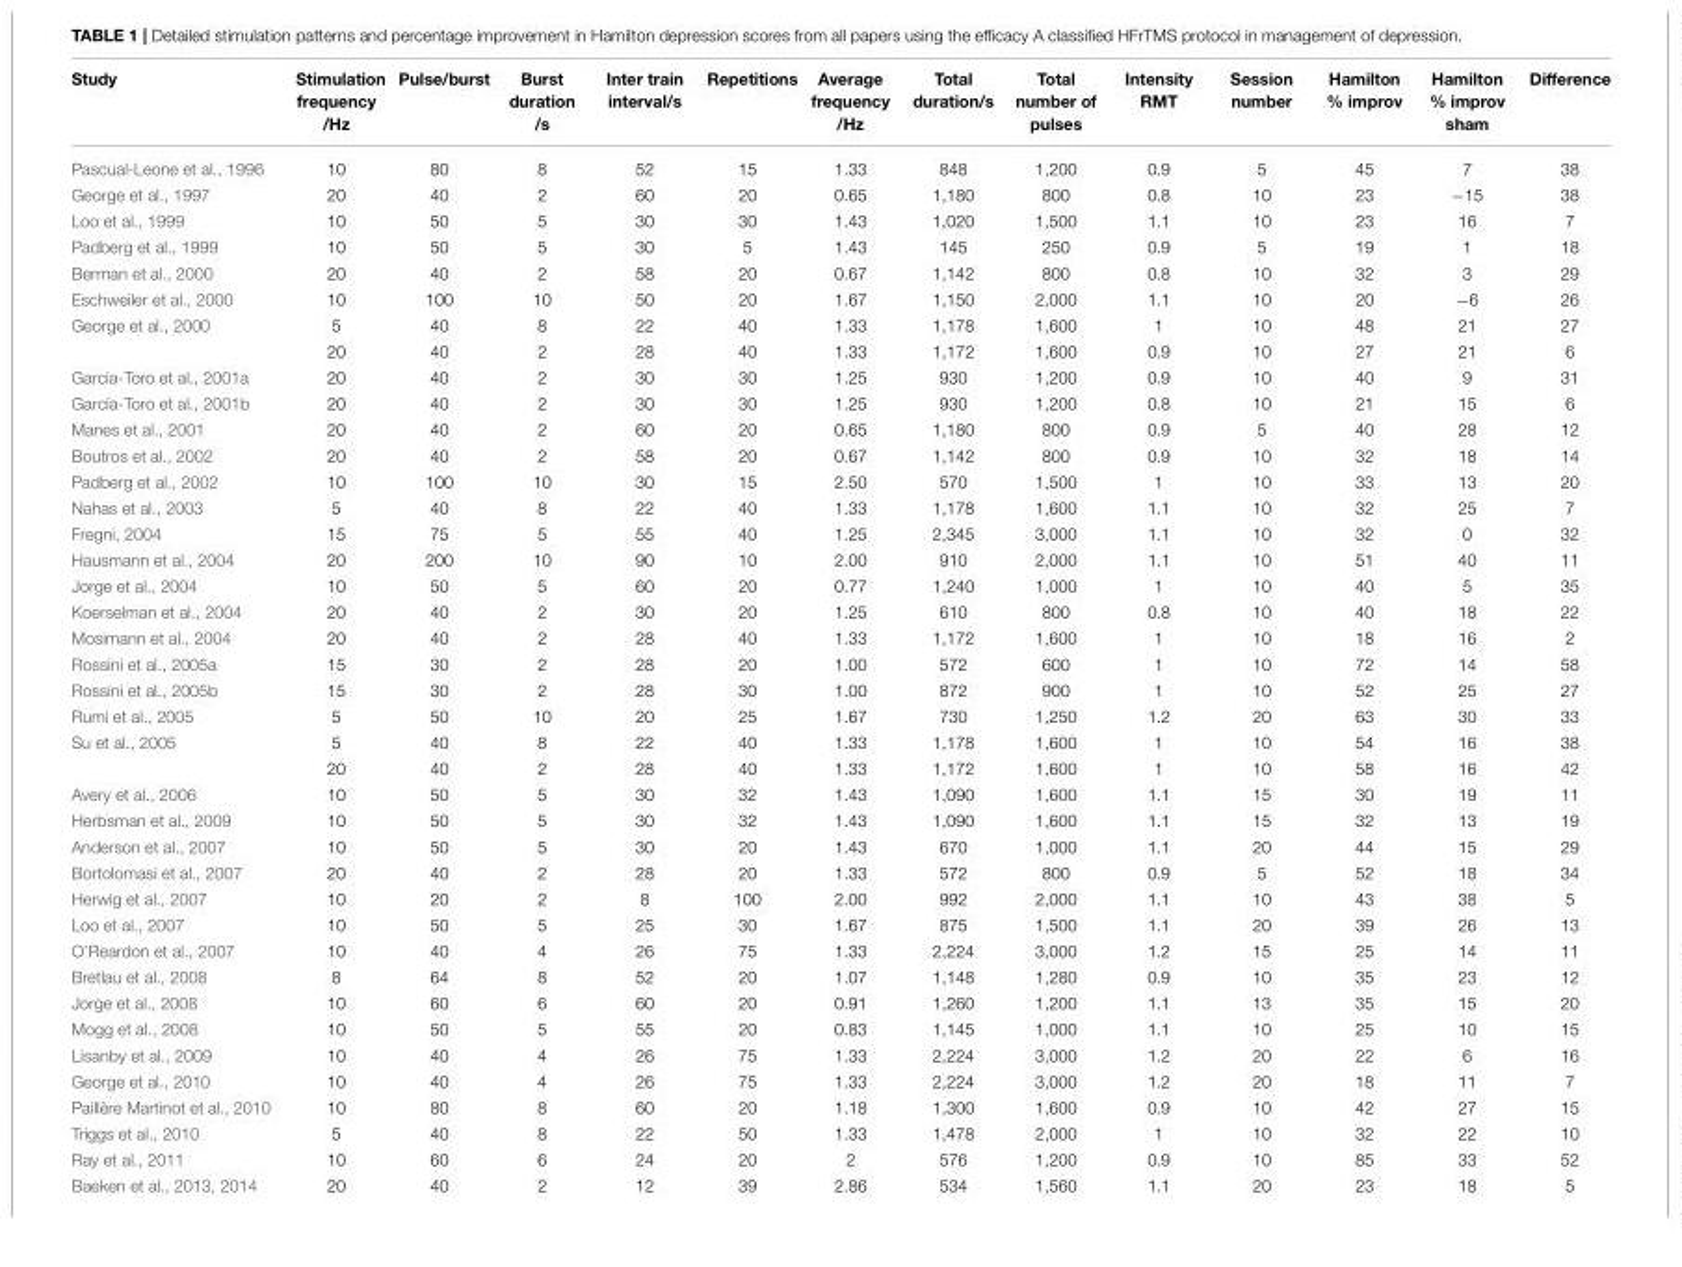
<table><thead><tr><td>Study</td><td>Stimulation frequency /Hz</td><td>Pulse/burst</td><td>Burst duration /s</td><td>Inter train interval/s</td><td>Repetitions</td><td>Average frequency /Hz</td><td>Total duration/s</td><td>Total number of pulses</td><td>Intensity RMT</td><td>Session number</td><td>Hamilton % improv</td><td>Hamilton % improv sham</td><td>Difference</td></tr></thead><tbody><tr><td>Pascual-Leone et al., 1996</td><td>10</td><td>80</td><td>8</td><td>52</td><td>15</td><td>1.33</td><td>848</td><td>1,200</td><td>0.9</td><td>5</td><td>45</td><td>7</td><td>38</td></tr><tr><td>George et al., 1997</td><td>20</td><td>40</td><td>2</td><td>60</td><td>20</td><td>0.65</td><td>1,180</td><td>800</td><td>0.8</td><td>10</td><td>23</td><td>−15</td><td>38</td></tr><tr><td>Loo et al., 1999</td><td>10</td><td>50</td><td>5</td><td>30</td><td>30</td><td>1.43</td><td>1,020</td><td>1,500</td><td>1.1</td><td>10</td><td>23</td><td>16</td><td>7</td></tr><tr><td>Padberg et al., 1999</td><td>10</td><td>50</td><td>5</td><td>30</td><td>5</td><td>1.43</td><td>145</td><td>250</td><td>0.9</td><td>5</td><td>19</td><td>1</td><td>18</td></tr><tr><td>Berman et al., 2000</td><td>20</td><td>40</td><td>2</td><td>58</td><td>20</td><td>0.67</td><td>1,142</td><td>800</td><td>0.8</td><td>10</td><td>32</td><td>3</td><td>29</td></tr><tr><td>Eschweiler et al., 2000</td><td>10</td><td>100</td><td>10</td><td>50</td><td>20</td><td>1.67</td><td>1,150</td><td>2,000</td><td>1.1</td><td>10</td><td>20</td><td>−6</td><td>26</td></tr><tr><td rowspan="2">George et al., 2000</td><td>5</td><td>40</td><td>8</td><td>22</td><td>40</td><td>1.33</td><td>1,178</td><td>1,600</td><td>1</td><td>10</td><td>48</td><td>21</td><td>27</td></tr><tr><td>20</td><td>40</td><td>2</td><td>28</td><td>40</td><td>1.33</td><td>1,172</td><td>1,600</td><td>0.9</td><td>10</td><td>27</td><td>21</td><td>6</td></tr><tr><td>Garcia-Toro et al., 2001a</td><td>20</td><td>40</td><td>2</td><td>30</td><td>30</td><td>1.25</td><td>930</td><td>1,200</td><td>0.9</td><td>10</td><td>40</td><td>9</td><td>31</td></tr><tr><td>García-Toro et al., 2001b</td><td>20</td><td>40</td><td>2</td><td>30</td><td>30</td><td>1.25</td><td>930</td><td>1,200</td><td>0.8</td><td>10</td><td>21</td><td>15</td><td>6</td></tr><tr><td>Manes et al., 2001</td><td>20</td><td>40</td><td>2</td><td>60</td><td>20</td><td>0.65</td><td>1,180</td><td>800</td><td>0.9</td><td>5</td><td>40</td><td>28</td><td>12</td></tr><tr><td>Boutros et al., 2002</td><td>20</td><td>40</td><td>2</td><td>58</td><td>20</td><td>0.67</td><td>1,142</td><td>800</td><td>0.9</td><td>10</td><td>32</td><td>18</td><td>14</td></tr><tr><td>Padberg et al., 2002</td><td>10</td><td>100</td><td>10</td><td>30</td><td>15</td><td>2.50</td><td>570</td><td>1,500</td><td>1</td><td>10</td><td>33</td><td>13</td><td>20</td></tr><tr><td>Nahas et al., 2003</td><td>5</td><td>40</td><td>8</td><td>22</td><td>40</td><td>1.33</td><td>1,178</td><td>1,600</td><td>1.1</td><td>10</td><td>32</td><td>25</td><td>7</td></tr><tr><td>Fregni, 2004</td><td>15</td><td>75</td><td>5</td><td>55</td><td>40</td><td>1.25</td><td>2,345</td><td>3,000</td><td>1.1</td><td>10</td><td>32</td><td>0</td><td>32</td></tr><tr><td>Hausmann et al., 2004</td><td>20</td><td>200</td><td>10</td><td>90</td><td>10</td><td>2.00</td><td>910</td><td>2,000</td><td>1.1</td><td>10</td><td>51</td><td>40</td><td>11</td></tr><tr><td>Jorge et al., 2004</td><td>10</td><td>50</td><td>5</td><td>60</td><td>20</td><td>0.77</td><td>1,240</td><td>1,000</td><td>1</td><td>10</td><td>40</td><td>5</td><td>35</td></tr><tr><td>Koerselman et al., 2004</td><td>20</td><td>40</td><td>2</td><td>30</td><td>20</td><td>1.25</td><td>610</td><td>800</td><td>0.8</td><td>10</td><td>40</td><td>18</td><td>22</td></tr><tr><td>Mosimann et al., 2004</td><td>20</td><td>40</td><td>2</td><td>28</td><td>40</td><td>1.33</td><td>1,172</td><td>1,600</td><td>1</td><td>10</td><td>18</td><td>16</td><td>2</td></tr><tr><td>Rossini et al., 2005a</td><td>15</td><td>30</td><td>2</td><td>28</td><td>20</td><td>1.00</td><td>572</td><td>600</td><td>1</td><td>10</td><td>72</td><td>14</td><td>58</td></tr><tr><td>Rossini et al., 2005b</td><td>15</td><td>30</td><td>2</td><td>28</td><td>30</td><td>1.00</td><td>872</td><td>900</td><td>1</td><td>10</td><td>52</td><td>25</td><td>27</td></tr><tr><td>Rumi et al., 2005</td><td>5</td><td>50</td><td>10</td><td>20</td><td>25</td><td>1.67</td><td>730</td><td>1,250</td><td>1.2</td><td>20</td><td>63</td><td>30</td><td>33</td></tr><tr><td rowspan="2">Su et al., 2005</td><td>5</td><td>40</td><td>8</td><td>22</td><td>40</td><td>1.33</td><td>1,178</td><td>1,600</td><td>1</td><td>10</td><td>54</td><td>16</td><td>38</td></tr><tr><td>20</td><td>40</td><td>2</td><td>28</td><td>40</td><td>1.33</td><td>1,172</td><td>1,600</td><td>1</td><td>10</td><td>58</td><td>16</td><td>42</td></tr><tr><td>Avery et al., 2006</td><td>10</td><td>50</td><td>5</td><td>30</td><td>32</td><td>1.43</td><td>1,090</td><td>1,600</td><td>1.1</td><td>15</td><td>30</td><td>19</td><td>11</td></tr><tr><td>Herbsman et al., 2009</td><td>10</td><td>50</td><td>5</td><td>30</td><td>32</td><td>1.43</td><td>1,090</td><td>1,600</td><td>1.1</td><td>15</td><td>32</td><td>13</td><td>19</td></tr><tr><td>Anderson et al., 2007</td><td>10</td><td>50</td><td>5</td><td>30</td><td>20</td><td>1.43</td><td>670</td><td>1,000</td><td>1.1</td><td>20</td><td>44</td><td>15</td><td>29</td></tr><tr><td>Bortolomasi et al., 2007</td><td>20</td><td>40</td><td>2</td><td>28</td><td>20</td><td>1.33</td><td>572</td><td>800</td><td>0.9</td><td>5</td><td>52</td><td>18</td><td>34</td></tr><tr><td>Herwig et al., 2007</td><td>10</td><td>20</td><td>2</td><td>8</td><td>100</td><td>2.00</td><td>992</td><td>2,000</td><td>1.1</td><td>10</td><td>43</td><td>38</td><td>5</td></tr><tr><td>Loo et al., 2007</td><td>10</td><td>50</td><td>5</td><td>25</td><td>30</td><td>1.67</td><td>875</td><td>1,500</td><td>1.1</td><td>20</td><td>39</td><td>26</td><td>13</td></tr><tr><td>O’Reardon et al., 2007</td><td>10</td><td>40</td><td>4</td><td>26</td><td>75</td><td>1.33</td><td>2,224</td><td>3,000</td><td>1.2</td><td>15</td><td>25</td><td>14</td><td>11</td></tr><tr><td>Bretlau et al., 2008</td><td>8</td><td>64</td><td>8</td><td>52</td><td>20</td><td>1.07</td><td>1,148</td><td>1,280</td><td>0.9</td><td>10</td><td>35</td><td>23</td><td>12</td></tr><tr><td>Jorge et al., 2008</td><td>10</td><td>60</td><td>6</td><td>60</td><td>20</td><td>0.91</td><td>1,260</td><td>1,200</td><td>1.1</td><td>13</td><td>35</td><td>15</td><td>20</td></tr><tr><td>Mogg et al., 2008</td><td>10</td><td>50</td><td>5</td><td>55</td><td>20</td><td>0.83</td><td>1,145</td><td>1,000</td><td>1.1</td><td>10</td><td>25</td><td>10</td><td>15</td></tr><tr><td>Lisanby et al., 2009</td><td>10</td><td>40</td><td>4</td><td>26</td><td>75</td><td>1.33</td><td>2,224</td><td>3,000</td><td>1.2</td><td>20</td><td>22</td><td>6</td><td>16</td></tr><tr><td>George et al., 2010</td><td>10</td><td>40</td><td>4</td><td>26</td><td>75</td><td>1.33</td><td>2,224</td><td>3,000</td><td>1.2</td><td>20</td><td>18</td><td>11</td><td>7</td></tr><tr><td>Paillère Martinot et al., 2010</td><td>10</td><td>80</td><td>8</td><td>60</td><td>20</td><td>1.18</td><td>1,300</td><td>1,600</td><td>0.9</td><td>10</td><td>42</td><td>27</td><td>15</td></tr><tr><td>Triggs et al., 2010</td><td>5</td><td>40</td><td>8</td><td>22</td><td>50</td><td>1.33</td><td>1,478</td><td>2,000</td><td>1</td><td>10</td><td>32</td><td>22</td><td>10</td></tr><tr><td>Ray et al., 2011</td><td>10</td><td>60</td><td>6</td><td>24</td><td>20</td><td>2</td><td>576</td><td>1,200</td><td>0.9</td><td>10</td><td>85</td><td>33</td><td>52</td></tr><tr><td>Baeken et al., 2013, 2014</td><td>20</td><td>40</td><td>2</td><td>12</td><td>39</td><td>2.86</td><td>534</td><td>1,560</td><td>1.1</td><td>20</td><td>23</td><td>18</td><td>5</td></tr></tbody></table>